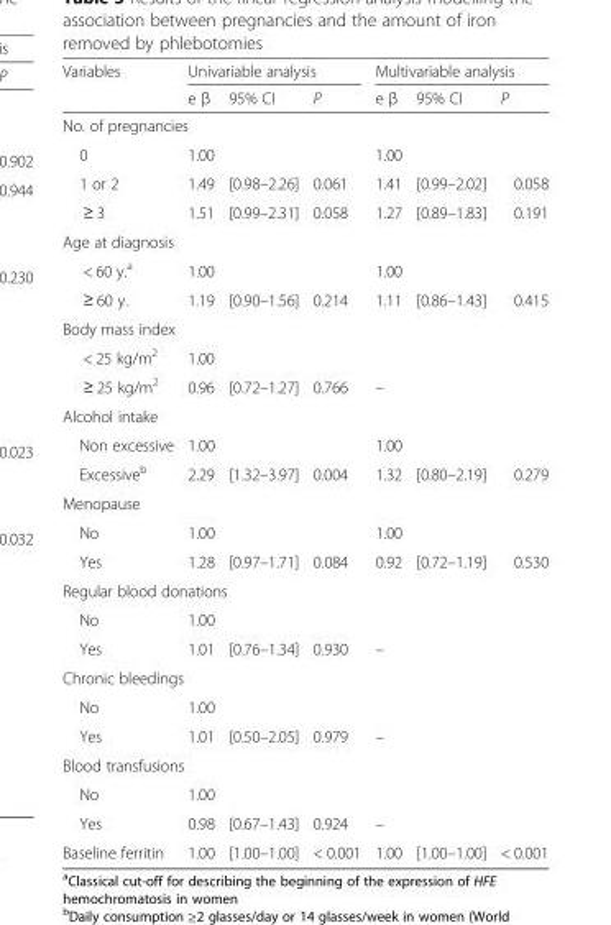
<table><thead><tr><td rowspan="2">Variables</td><td colspan="3">Univariable analysis</td><td colspan="3">Multivariable analysis</td></tr><tr><td>e β</td><td>95% CI</td><td>P</td><td>e β</td><td>95% CI</td><td>P</td></tr></thead><tbody><tr><td colspan="7">No. of pregnancies</td></tr><tr><td>0</td><td>1.00</td><td></td><td></td><td>1.00</td><td></td><td></td></tr><tr><td>1 or 2</td><td>1.49</td><td>[0.98–2.26]</td><td>0.061</td><td>1.41</td><td>[0.99–2.02]</td><td>0.058</td></tr><tr><td>≥ 3</td><td>1.51</td><td>[0.99–2.31]</td><td>0.058</td><td>1.27</td><td>[0.89–1.83]</td><td>0.191</td></tr><tr><td colspan="7">Age at diagnosis</td></tr><tr><td>&lt; 60 y.<sup>a</sup></td><td>1.00</td><td></td><td></td><td>1.00</td><td></td><td></td></tr><tr><td>≥ 60 y.</td><td>1.19</td><td>[0.90–1.56]</td><td>0.214</td><td>1.11</td><td>[0.86–1.43]</td><td>0.415</td></tr><tr><td colspan="7">Body mass index</td></tr><tr><td>&lt; 25 kg/m<sup>2</sup></td><td>1.00</td><td></td><td></td><td></td><td></td><td></td></tr><tr><td>≥ 25 kg/m<sup>2</sup></td><td>0.96</td><td>[0.72–1.27]</td><td>0.766</td><td>–</td><td></td><td></td></tr><tr><td colspan="7">Alcohol intake</td></tr><tr><td>Non excessive</td><td>1.00</td><td></td><td></td><td>1.00</td><td></td><td></td></tr><tr><td>Excessive<sup>b</sup></td><td>2.29</td><td>[1.32–3.97]</td><td>0.004</td><td>1.32</td><td>[0.80–2.19]</td><td>0.279</td></tr><tr><td colspan="7">Menopause</td></tr><tr><td>No</td><td>1.00</td><td></td><td></td><td>1.00</td><td></td><td></td></tr><tr><td>Yes</td><td>1.28</td><td>[0.97–1.71]</td><td>0.084</td><td>0.92</td><td>[0.72–1.19]</td><td>0.530</td></tr><tr><td colspan="7">Regular blood donations</td></tr><tr><td>No</td><td>1.00</td><td></td><td></td><td></td><td></td><td></td></tr><tr><td>Yes</td><td>1.01</td><td>[0.76–1.34]</td><td>0.930</td><td>–</td><td></td><td></td></tr><tr><td colspan="7">Chronic bleedings</td></tr><tr><td>No</td><td>1.00</td><td></td><td></td><td></td><td></td><td></td></tr><tr><td>Yes</td><td>1.01</td><td>[0.50–2.05]</td><td>0.979</td><td>–</td><td></td><td></td></tr><tr><td colspan="7">Blood transfusions</td></tr><tr><td>No</td><td>1.00</td><td></td><td></td><td></td><td></td><td></td></tr><tr><td>Yes</td><td>0.98</td><td>[0.67–1.43]</td><td>0.924</td><td>–</td><td></td><td></td></tr><tr><td>Baseline ferritin</td><td>1.00</td><td>[1.00–1.00]</td><td>&lt; 0.001</td><td>1.00</td><td>[1.00–1.00]</td><td>&lt; 0.001</td></tr></tbody></table>